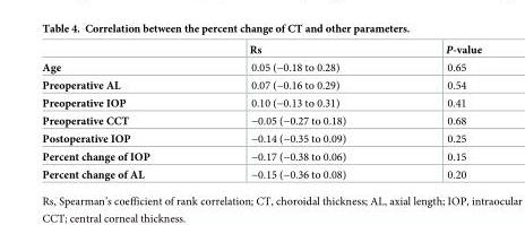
<table><thead><tr><td></td><td>Rs</td><td>P-value</td></tr></thead><tbody><tr><td>Age</td><td>0.05 (−0.18 to 0.28)</td><td>0.65</td></tr><tr><td>Preoperative AL</td><td>0.07 (−0.16 to 0.29)</td><td>0.54</td></tr><tr><td>Preoperative IOP</td><td>0.10 (−0.13 to 0.31)</td><td>0.41</td></tr><tr><td>Preoperative CCT</td><td>−0.05 (−0.27 to 0.18)</td><td>0.68</td></tr><tr><td>Postoperative IOP</td><td>−0.14 (−0.35 to 0.09)</td><td>0.25</td></tr><tr><td>Percent change of IOP</td><td>−0.17 (−0.38 to 0.06)</td><td>0.15</td></tr><tr><td>Percent change of AL</td><td>−0.15 (−0.36 to 0.08)</td><td>0.20</td></tr></tbody></table>